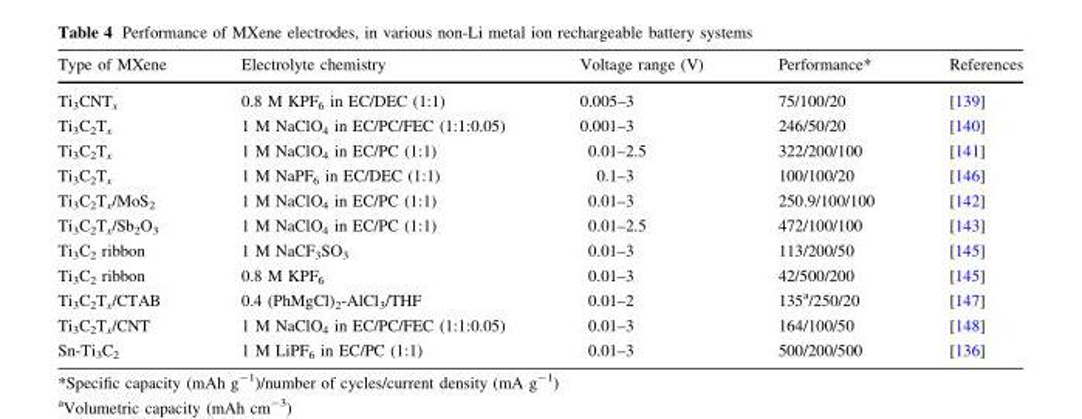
<table><thead><tr><td>Type of MXene</td><td>Electrolyte chemistry</td><td>Voltage range (V)</td><td>Performance*</td><td>References</td></tr></thead><tbody><tr><td>Ti<sub>3</sub>CNT<sub>x</sub></td><td>0.8 M KPF<sub>6</sub> in EC/DEC (1:1)</td><td>0.005–3</td><td>75/100/20</td><td>[139]</td></tr><tr><td>Ti<sub>3</sub>C<sub>2</sub>T<sub>x</sub></td><td>1 M NaClO<sub>4</sub> in EC/PC/FEC (1:1:0.05)</td><td>0.001–3</td><td>246/50/20</td><td>[140]</td></tr><tr><td>Ti<sub>3</sub>C<sub>2</sub>T<sub>x</sub></td><td>1 M NaClO<sub>4</sub> in EC/PC (1:1)</td><td>0.01–2.5</td><td>322/200/100</td><td>[141]</td></tr><tr><td>Ti<sub>3</sub>C<sub>2</sub>T<sub>x</sub></td><td>1 M NaPF<sub>6</sub> in EC/DEC (1:1)</td><td>0.1–3</td><td>100/100/20</td><td>[146]</td></tr><tr><td>Ti<sub>3</sub>C<sub>2</sub>T<sub>x</sub>/MoS<sub>2</sub></td><td>1 M NaClO<sub>4</sub> in EC/PC (1:1)</td><td>0.01–3</td><td>250.9/100/100</td><td>[142]</td></tr><tr><td>Ti<sub>3</sub>C<sub>2</sub>T<sub>x</sub>/Sb<sub>2</sub>O<sub>3</sub></td><td>1 M NaClO<sub>4</sub> in EC/PC (1:1)</td><td>0.01–2.5</td><td>472/100/100</td><td>[143]</td></tr><tr><td>Ti<sub>3</sub>C<sub>2</sub> ribbon</td><td>1 M NaCF<sub>3</sub>SO<sub>3</sub></td><td>0.01–3</td><td>113/200/50</td><td>[145]</td></tr><tr><td>Ti<sub>3</sub>C<sub>2</sub> ribbon</td><td>0.8 M KPF<sub>6</sub></td><td>0.01–3</td><td>42/500/200</td><td>[145]</td></tr><tr><td>Ti<sub>3</sub>C<sub>2</sub>T<sub>x</sub>/CTAB</td><td>0.4 (PhMgCl)<sub>2</sub>-AlCl<sub>3</sub>/THF</td><td>0.01–2</td><td>135<sup>a</sup>/250/20</td><td>[147]</td></tr><tr><td>Ti<sub>3</sub>C<sub>2</sub>T<sub>x</sub>/CNT</td><td>1 M NaClO<sub>4</sub> in EC/PC/FEC (1:1:0.05)</td><td>0.01–3</td><td>164/100/50</td><td>[148]</td></tr><tr><td>Sn-Ti<sub>3</sub>C<sub>2</sub></td><td>1 M LiPF<sub>6</sub> in EC/PC (1:1)</td><td>0.01–3</td><td>500/200/500</td><td>[136]</td></tr></tbody></table>